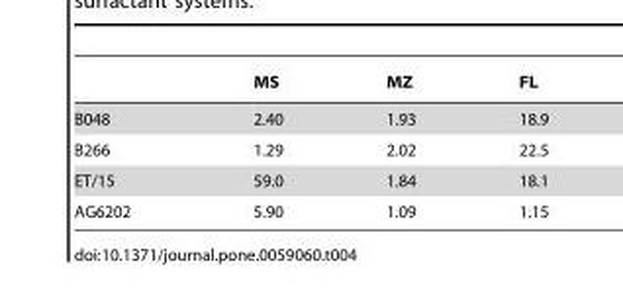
<table><thead><tr><td></td><td>MS</td><td>MZ</td><td>FL</td></tr></thead><tbody><tr><td>B048</td><td>2.40</td><td>1.93</td><td>18.9</td></tr><tr><td>B266</td><td>1.29</td><td>2.02</td><td>22.5</td></tr><tr><td>ET/15</td><td>59.0</td><td>1.84</td><td>18.1</td></tr><tr><td>AG6202</td><td>5.90</td><td>1.09</td><td>1.15</td></tr></tbody></table>